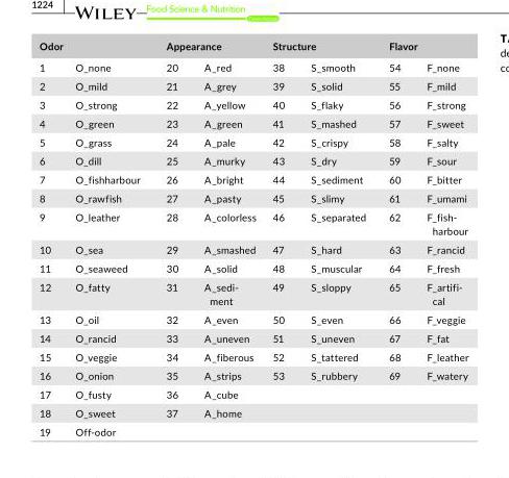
<table><thead><tr><td colspan="2">Odor</td><td colspan="2">Appearance</td><td colspan="2">Structure</td><td colspan="2">Flavor</td></tr><tr><td>1</td><td>O_none</td><td>20</td><td>A_red</td><td>38</td><td>S_smooth</td><td>54</td><td>F_none</td></tr></thead><tbody><tr><td>2</td><td>O_mild</td><td>21</td><td>A_grey</td><td>39</td><td>S_solid</td><td>55</td><td>F_mild</td></tr><tr><td>3</td><td>O_strong</td><td>22</td><td>A_yellow</td><td>40</td><td>S_flaky</td><td>56</td><td>F_strong</td></tr><tr><td>4</td><td>O_green</td><td>23</td><td>A_green</td><td>41</td><td>S_mashed</td><td>57</td><td>F_sweet</td></tr><tr><td>5</td><td>O_grass</td><td>24</td><td>A_pale</td><td>42</td><td>S_crispy</td><td>58</td><td>F_salty</td></tr><tr><td>6</td><td>O_dill</td><td>25</td><td>A_murky</td><td>43</td><td>S_dry</td><td>59</td><td>F_sour</td></tr><tr><td>7</td><td>O_fishharbour</td><td>26</td><td>A_bright</td><td>44</td><td>S_sediment</td><td>60</td><td>F_bitter</td></tr><tr><td>8</td><td>O_rawfish</td><td>27</td><td>A_pasty</td><td>45</td><td>S_slimy</td><td>61</td><td>F_umami</td></tr><tr><td>9</td><td>O_leather</td><td>28</td><td>A_colorless</td><td>46</td><td>S_separated</td><td>62</td><td>F_fish- harbour</td></tr><tr><td>10</td><td>O_sea</td><td>29</td><td>A_smashed</td><td>47</td><td>S_hard</td><td>63</td><td>F_rancid</td></tr><tr><td>11</td><td>O_seaweed</td><td>30</td><td>A_solid</td><td>48</td><td>S_muscular</td><td>64</td><td>F_fresh</td></tr><tr><td>12</td><td>O_fatty</td><td>31</td><td>A_sedi- ment</td><td>49</td><td>S_sloppy</td><td>65</td><td>F_artifi- cal</td></tr><tr><td>13</td><td>O_oil</td><td>32</td><td>A_even</td><td>50</td><td>S_even</td><td>66</td><td>F_veggie</td></tr><tr><td>14</td><td>O_rancid</td><td>33</td><td>A_uneven</td><td>51</td><td>S_uneven</td><td>67</td><td>F_fat</td></tr><tr><td>15</td><td>O_veggie</td><td>34</td><td>A_fiberous</td><td>52</td><td>S_tattered</td><td>68</td><td>F_leather</td></tr><tr><td>16</td><td>O_onion</td><td>35</td><td>A_strips</td><td>53</td><td>S_rubbery</td><td>69</td><td>F_watery</td></tr><tr><td>17</td><td>O_fusty</td><td>36</td><td>A_cube</td><td></td><td></td><td></td><td></td></tr><tr><td>18</td><td>O_sweet</td><td>37</td><td>A_home</td><td></td><td></td><td></td><td></td></tr><tr><td>19</td><td>Off- odor</td><td></td><td></td><td></td><td></td><td></td><td></td></tr></tbody></table>